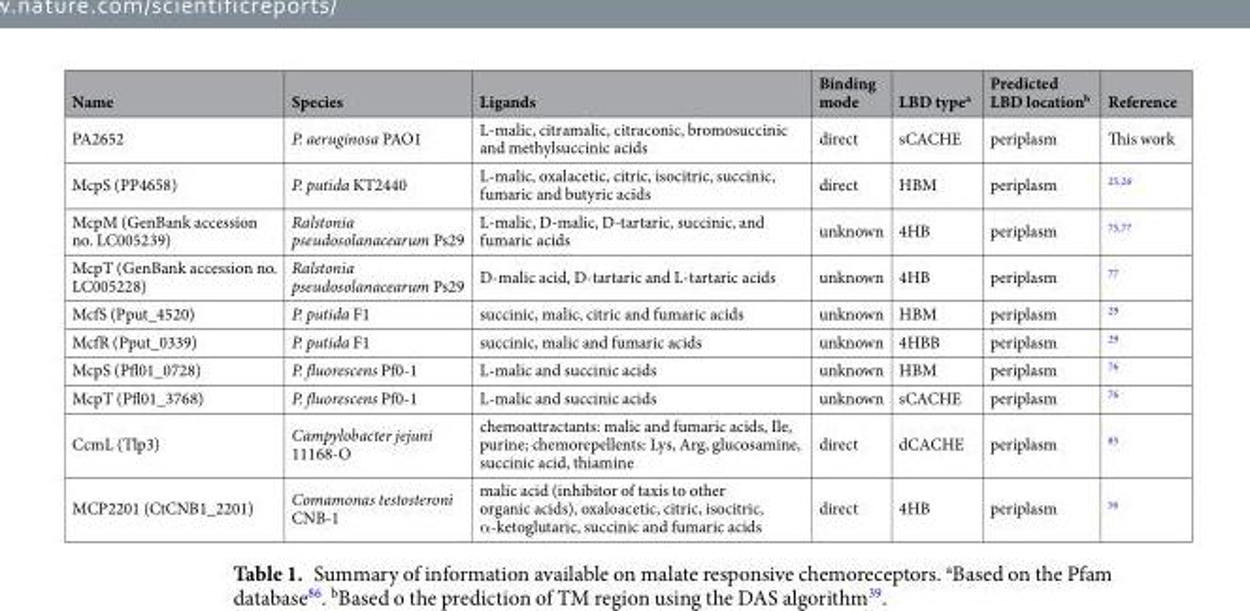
<table><thead><tr><td>Name</td><td>Species</td><td>Ligands</td><td>Binding mode</td><td>LBD type<sup>a</sup></td><td>Predicted LBD location<sup>b</sup></td><td>Reference</td></tr></thead><tbody><tr><td>PA2652</td><td>P. aeruginosa PAO1</td><td>L-malic, citramalic, citraconic, bromosuccinic and methylsuccinic acids</td><td>direct</td><td>sCACHE</td><td>periplasm</td><td>This work</td></tr><tr><td>McpS (PP4658)</td><td>P. putida KT2440</td><td>L-malic, oxalacetic, citric, isocitric, succinic, fumaric and butyric acids</td><td>direct</td><td>HBM</td><td>periplasm</td><td><sup>25,26</sup></td></tr><tr><td>McpM (GenBank accession no. LC005239)</td><td>Ralstonia pseudosolanacearum Ps29</td><td>L-malic, D-malic, D-tartaric, succinic, and fumaric acids</td><td>unknown</td><td>4HB</td><td>periplasm</td><td><sup>75,77</sup></td></tr><tr><td>McpT (GenBank accession no. LC005228)</td><td>Ralstonia pseudosolanacearum Ps29</td><td>D-malic acid, D-tartaric and L-tartaric acids</td><td>unknown</td><td>4HB</td><td>periplasm</td><td><sup>77</sup></td></tr><tr><td>McfS (Pput_4520)</td><td>P. putida F1</td><td>succinic, malic, citric and fumaric acids</td><td>unknown</td><td>HBM</td><td>periplasm</td><td><sup>29</sup></td></tr><tr><td>McfR (Pput_0339)</td><td>P. putida F1</td><td>succinic, malic and fumaric acids</td><td>unknown</td><td>4HBB</td><td>periplasm</td><td><sup>29</sup></td></tr><tr><td>McpS (Pfl01_0728)</td><td>P. fluorescens Pf0-1</td><td>L-malic and succinic acids</td><td>unknown</td><td>HBM</td><td>periplasm</td><td><sup>76</sup></td></tr><tr><td>McpT (Pfl01_3768)</td><td>P. fluorescens Pf0-1</td><td>L-malic and succinic acids</td><td>unknown</td><td>sCACHE</td><td>periplasm</td><td><sup>76</sup></td></tr><tr><td>CcmL (Tlp3)</td><td>Campylobacter jejuni 11168-O</td><td>chemoattractants: malic and fumaric acids, Ile, purine; chemorepellents: Lys, Arg, glucosamine, succinic acid, thiamine</td><td>direct</td><td>dCACHE</td><td>periplasm</td><td><sup>85</sup></td></tr><tr><td>MCP2201 (CtCNB1_2201)</td><td>Comamonas testosteroni CNB-1</td><td>malic acid (inhibitor of taxis to other organic acids), oxaloacetic, citric, isocitric, α-ketoglutaric, succinic and fumaric acids</td><td>direct</td><td>4HB</td><td>periplasm</td><td><sup>56</sup></td></tr></tbody></table>